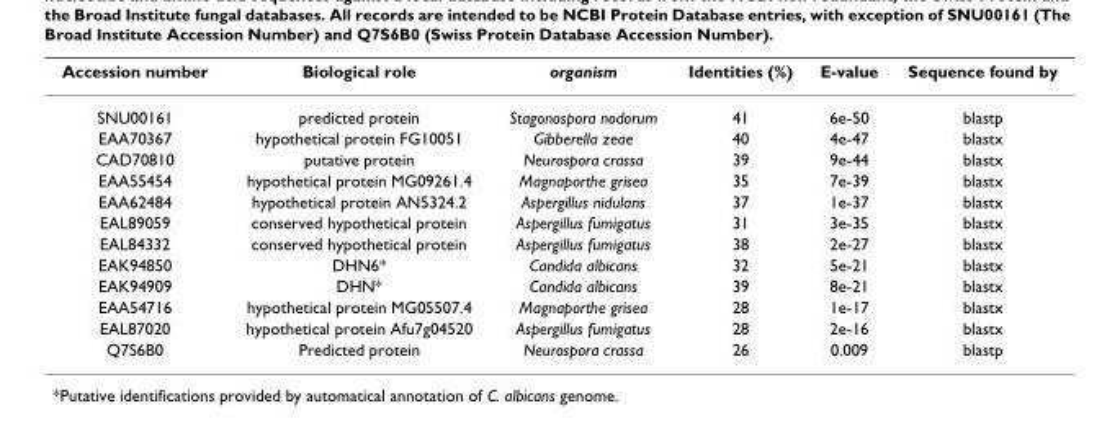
<table><thead><tr><td>Accession number</td><td>Biological role</td><td>organism</td><td>Identities (%)</td><td>E-value</td><td>Sequence found by</td></tr></thead><tbody><tr><td>SNU00161</td><td>predicted protein</td><td>Stagonospora nodorum</td><td>41</td><td>6e-50</td><td>blastp</td></tr><tr><td>EAA70367</td><td>hypothetical protein FG10051</td><td>Gibberella zeae</td><td>40</td><td>4e-47</td><td>blastx</td></tr><tr><td>CAD70810</td><td>putative protein</td><td>Neurospora crassa</td><td>39</td><td>9e-44</td><td>blastx</td></tr><tr><td>EAA55454</td><td>hypothetical protein MG09261.4</td><td>Magnaporthe grisea</td><td>35</td><td>7e-39</td><td>blastx</td></tr><tr><td>EAA62484</td><td>hypothetical protein AN5324.2</td><td>Aspergillus nidulans</td><td>37</td><td>1e-37</td><td>blastx</td></tr><tr><td>EAL89059</td><td>conserved hypothetical protein</td><td>Aspergillus fumigatus</td><td>31</td><td>3e-35</td><td>blastx</td></tr><tr><td>EAL84332</td><td>conserved hypothetical protein</td><td>Aspergillus fumigatus</td><td>38</td><td>2e-27</td><td>blastx</td></tr><tr><td>EAK94850</td><td>DHN6*</td><td>Candida albicans</td><td>32</td><td>5e-21</td><td>blastx</td></tr><tr><td>EAK94909</td><td>DHN*</td><td>Candida albicans</td><td>39</td><td>8e-21</td><td>blastx</td></tr><tr><td>EAA54716</td><td>hypothetical protein MG05507.4</td><td>Magnaporthe grisea</td><td>28</td><td>1e-17</td><td>blastx</td></tr><tr><td>EAL87020</td><td>hypothetical protein Afu7g04520</td><td>Aspergillus fumigatus</td><td>28</td><td>2e-16</td><td>blastx</td></tr><tr><td>Q7S6B0</td><td>Predicted protein</td><td>Neurospora crassa</td><td>26</td><td>0.009</td><td>blastp</td></tr></tbody></table>